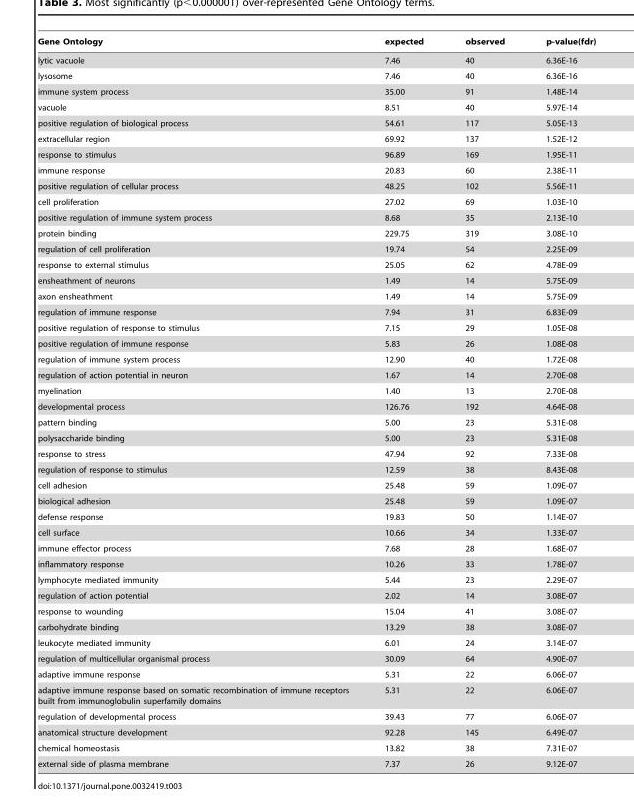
<table><thead><tr><td>Gene Ontology</td><td>expected</td><td>observed</td><td>p-value(fdr)</td></tr></thead><tbody><tr><td>lytic vacuole</td><td>7.46</td><td>40</td><td>6.36E-16</td></tr><tr><td>lysosome</td><td>7.46</td><td>40</td><td>6.36E-16</td></tr><tr><td>immune system process</td><td>35.00</td><td>91</td><td>1.48E-14</td></tr><tr><td>vacuole</td><td>8.51</td><td>40</td><td>5.97E-14</td></tr><tr><td>positive regulation of biological process</td><td>54.61</td><td>117</td><td>5.05E-13</td></tr><tr><td>extracellular region</td><td>69.92</td><td>137</td><td>1.52E-12</td></tr><tr><td>response to stimulus</td><td>96.89</td><td>169</td><td>1.95E-11</td></tr><tr><td>immune response</td><td>20.83</td><td>60</td><td>2.38E-11</td></tr><tr><td>positive regulation of cellular process</td><td>48.25</td><td>102</td><td>5.56E-11</td></tr><tr><td>cell proliferation</td><td>27.02</td><td>69</td><td>1.03E-10</td></tr><tr><td>positive regulation of immune system process</td><td>8.68</td><td>35</td><td>2.13E-10</td></tr><tr><td>protein binding</td><td>229.75</td><td>319</td><td>3.08E-10</td></tr><tr><td>regulation of cell proliferation</td><td>19.74</td><td>54</td><td>2.25E-09</td></tr><tr><td>response to external stimulus</td><td>25.05</td><td>62</td><td>4.78E-09</td></tr><tr><td>ensheathment of neurons</td><td>1.49</td><td>14</td><td>5.75E-09</td></tr><tr><td>axon ensheathment</td><td>1.49</td><td>14</td><td>5.75E-09</td></tr><tr><td>regulation of immune response</td><td>7.94</td><td>31</td><td>6.83E-09</td></tr><tr><td>positive regulation of response to stimulus</td><td>7.15</td><td>29</td><td>1.05E-08</td></tr><tr><td>positive regulation of immune response</td><td>5.83</td><td>26</td><td>1.08E-08</td></tr><tr><td>regulation of immune system process</td><td>12.90</td><td>40</td><td>1.72E-08</td></tr><tr><td>regulation of action potential in neuron</td><td>1.67</td><td>14</td><td>2.70E-08</td></tr><tr><td>myelination</td><td>1.40</td><td>13</td><td>2.70E-08</td></tr><tr><td>developmental process</td><td>126.76</td><td>192</td><td>4.64E-08</td></tr><tr><td>pattern binding</td><td>5.00</td><td>23</td><td>5.31E-08</td></tr><tr><td>polysaccharide binding</td><td>5.00</td><td>23</td><td>5.31E-08</td></tr><tr><td>response to stress</td><td>47.94</td><td>92</td><td>7.33E-08</td></tr><tr><td>regulation of response to stimulus</td><td>12.59</td><td>38</td><td>8.43E-08</td></tr><tr><td>cell adhesion</td><td>25.48</td><td>59</td><td>1.09E-07</td></tr><tr><td>biological adhesion</td><td>25.48</td><td>59</td><td>1.09E-07</td></tr><tr><td>defense response</td><td>19.83</td><td>50</td><td>1.14E-07</td></tr><tr><td>cell surface</td><td>10.66</td><td>34</td><td>1.33E-07</td></tr><tr><td>immune effector process</td><td>7.68</td><td>28</td><td>1.68E-07</td></tr><tr><td>inflammatory response</td><td>10.26</td><td>33</td><td>1.78E-07</td></tr><tr><td>lymphocyte mediated immunity</td><td>5.44</td><td>23</td><td>2.29E-07</td></tr><tr><td>regulation of action potential</td><td>2.02</td><td>14</td><td>3.08E-07</td></tr><tr><td>response to wounding</td><td>15.04</td><td>41</td><td>3.08E-07</td></tr><tr><td>carbohydrate binding</td><td>13.29</td><td>38</td><td>3.08E-07</td></tr><tr><td>leukocyte mediated immunity</td><td>6.01</td><td>24</td><td>3.14E-07</td></tr><tr><td>regulation of multicellular organismal process</td><td>30.09</td><td>64</td><td>4.90E-07</td></tr><tr><td>adaptive immune response</td><td>5.31</td><td>22</td><td>6.06E-07</td></tr><tr><td>adaptive immune response based on somatic recombination of immune receptors built from immunoglobulin superfamily domains</td><td>5.31</td><td>22</td><td>6.06E-07</td></tr><tr><td>regulation of developmental process</td><td>39.43</td><td>77</td><td>6.06E-07</td></tr><tr><td>anatomical structure development</td><td>92.28</td><td>145</td><td>6.49E-07</td></tr><tr><td>chemical homeostasis</td><td>13.82</td><td>38</td><td>7.31E-07</td></tr><tr><td>external side of plasma membrane</td><td>7.37</td><td>26</td><td>9.12E-07</td></tr></tbody></table>